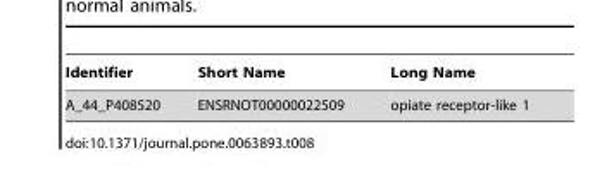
<table><thead><tr><td>Identifier</td><td>Short Name</td><td>Long Name</td></tr></thead><tbody><tr><td>A_44_P408520</td><td>ENSRNOT00000022509</td><td>opiate receptor-like 1</td></tr></tbody></table>